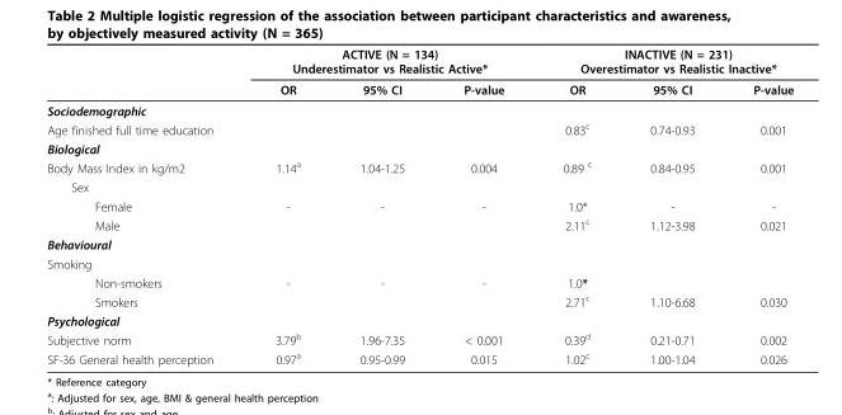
<table><thead><tr><td rowspan="2"></td><td colspan="3">ACTIVE (N = 134) Underestimator vs Realistic Active*</td><td colspan="3">INACTIVE (N = 231) Overestimator vs Realistic Inactive*</td></tr><tr><td>OR</td><td>95% CI</td><td>P-value</td><td>OR</td><td>95% CI</td><td>P-value</td></tr></thead><tbody><tr><td colspan="7">Sociodemographic</td></tr><tr><td>Age finished full time education</td><td></td><td></td><td></td><td>0.83<sup>c</sup></td><td>0.74-0.93</td><td>0.001</td></tr><tr><td colspan="7">Biological</td></tr><tr><td>Body Mass Index in kg/m2</td><td>1.14<sup>a</sup></td><td>1.04-1.25</td><td>0.004</td><td>0.89 <sup>c</sup></td><td>0.84-0.95</td><td>0.001</td></tr><tr><td colspan="7">Sex</td></tr><tr><td>Female</td><td>-</td><td>-</td><td>-</td><td>1.0*</td><td>-</td><td>-</td></tr><tr><td>Male</td><td></td><td></td><td></td><td>2.11<sup>c</sup></td><td>1.12-3.98</td><td>0.021</td></tr><tr><td colspan="7">Behavioural</td></tr><tr><td colspan="7">Smoking</td></tr><tr><td>Non-smokers</td><td>-</td><td>-</td><td>-</td><td>1.0*</td><td></td><td></td></tr><tr><td>Smokers</td><td></td><td></td><td></td><td>2.71<sup>c</sup></td><td>1.10-6.68</td><td>0.030</td></tr><tr><td colspan="7">Psychological</td></tr><tr><td>Subjective norm</td><td>3.79<sup>b</sup></td><td>1.96-7.35</td><td>&lt; 0.001</td><td>0.39<sup>d</sup></td><td>0.21-0.71</td><td>0.002</td></tr><tr><td>SF-36 General health perception</td><td>0.97<sup>a</sup></td><td>0.95-0.99</td><td>0.015</td><td>1.02<sup>c</sup></td><td>1.00-1.04</td><td>0.026</td></tr></tbody></table>